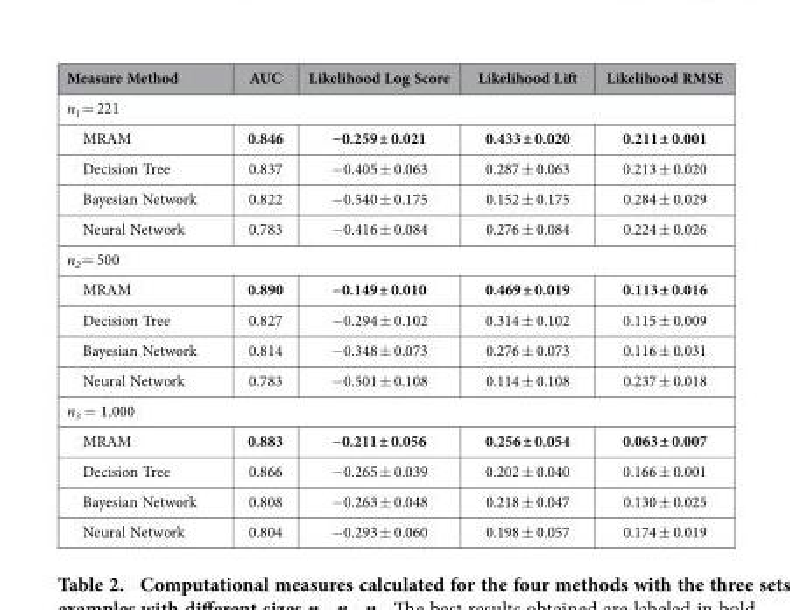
<table><thead><tr><td>Measure Method</td><td>AUC</td><td>Likelihood Log Score</td><td>Likelihood Lift</td><td>Likelihood RMSE</td></tr></thead><tbody><tr><td colspan="5">n<sub>1</sub> = 221</td></tr><tr><td>MRAM</td><td>0.846</td><td>− 0.259 ± 0.021</td><td>0.433 ± 0.020</td><td>0.211 ± 0.001</td></tr><tr><td>Decision Tree</td><td>0.837</td><td>− 0.405 ± 0.063</td><td>0.287 ± 0.063</td><td>0.213 ± 0.020</td></tr><tr><td>Bayesian Network</td><td>0.822</td><td>− 0.540 ± 0.175</td><td>0.152 ± 0.175</td><td>0.284 ± 0.029</td></tr><tr><td>Neural Network</td><td>0.783</td><td>− 0.416 ± 0.084</td><td>0.276 ± 0.084</td><td>0.224 ± 0.026</td></tr><tr><td colspan="5">n<sub>2</sub> = 500</td></tr><tr><td>MRAM</td><td>0.890</td><td>− 0.149 ± 0.010</td><td>0.469 ± 0.019</td><td>0.113 ± 0.016</td></tr><tr><td>Decision Tree</td><td>0.827</td><td>− 0.294 ± 0.102</td><td>0.314 ± 0.102</td><td>0.115 ± 0.009</td></tr><tr><td>Bayesian Network</td><td>0.814</td><td>− 0.348 ± 0.073</td><td>0.276 ± 0.073</td><td>0.116 ± 0.031</td></tr><tr><td>Neural Network</td><td>0.783</td><td>− 0.501 ± 0.108</td><td>0.114 ± 0.108</td><td>0.237 ± 0.018</td></tr><tr><td colspan="5">n<sub>3</sub> = 1,000</td></tr><tr><td>MRAM</td><td>0.883</td><td>− 0.211 ± 0.056</td><td>0.256 ± 0.054</td><td>0.063 ± 0.007</td></tr><tr><td>Decision Tree</td><td>0.866</td><td>− 0.265 ± 0.039</td><td>0.202 ± 0.040</td><td>0.166 ± 0.001</td></tr><tr><td>Bayesian Network</td><td>0.808</td><td>− 0.263 ± 0.048</td><td>0.218 ± 0.047</td><td>0.130 ± 0.025</td></tr><tr><td>Neural Network</td><td>0.804</td><td>− 0.293 ± 0.060</td><td>0.198 ± 0.057</td><td>0.174 ± 0.019</td></tr></tbody></table>